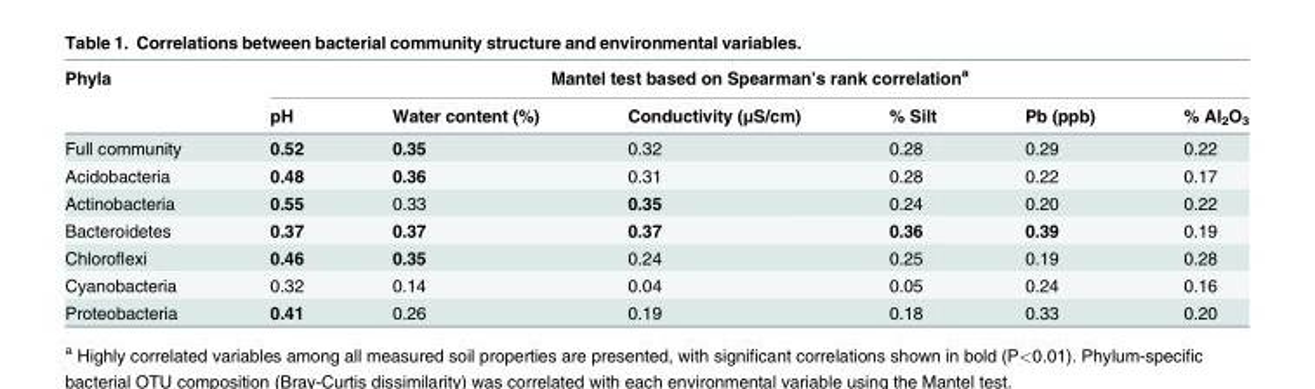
<table><thead><tr><td rowspan="2">Phyla</td><td colspan="6">Mantel test based on Spearman’s rank correlation<sup>a</sup></td></tr><tr><td>pH</td><td>Water content (%)</td><td>Conductivity (μS/cm)</td><td>% Silt</td><td>Pb (ppb)</td><td>% Al<sub>2</sub>O<sub>3</sub></td></tr></thead><tbody><tr><td>Full community</td><td>0.52</td><td>0.35</td><td>0.32</td><td>0.28</td><td>0.29</td><td>0.22</td></tr><tr><td>Acidobacteria</td><td>0.48</td><td>0.36</td><td>0.31</td><td>0.28</td><td>0.22</td><td>0.17</td></tr><tr><td>Actinobacteria</td><td>0.55</td><td>0.33</td><td>0.35</td><td>0.24</td><td>0.20</td><td>0.22</td></tr><tr><td>Bacteroidetes</td><td>0.37</td><td>0.37</td><td>0.37</td><td>0.36</td><td>0.39</td><td>0.19</td></tr><tr><td>Chloroflexi</td><td>0.46</td><td>0.35</td><td>0.24</td><td>0.25</td><td>0.19</td><td>0.28</td></tr><tr><td>Cyanobacteria</td><td>0.32</td><td>0.14</td><td>0.04</td><td>0.05</td><td>0.24</td><td>0.16</td></tr><tr><td>Proteobacteria</td><td>0.41</td><td>0.26</td><td>0.19</td><td>0.18</td><td>0.33</td><td>0.20</td></tr></tbody></table>